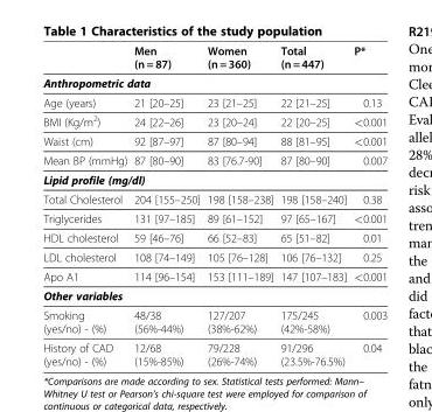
<table><thead><tr><td></td><td>Men (n = 87)</td><td>Women (n = 360)</td><td>Total (n = 447)</td><td>P*</td></tr></thead><tbody><tr><td colspan="5">Anthropometric data</td></tr><tr><td>Age (years)</td><td>21 [20–25]</td><td>23 [21–25]</td><td>22 [21–25]</td><td>0.13</td></tr><tr><td>BMI (Kg/m<sup>2</sup>)</td><td>24 [22–26]</td><td>23 [20–24]</td><td>22 [20–25]</td><td>&lt;0.001</td></tr><tr><td>Waist (cm)</td><td>92 [87–97]</td><td>87 [80–94]</td><td>88 [81–95]</td><td>&lt;0.001</td></tr><tr><td>Mean BP (mmHg)</td><td>87 [80–90]</td><td>83 [76.7-90]</td><td>87 [80–90]</td><td>0.007</td></tr><tr><td colspan="5">Lipid profile (mg/dl)</td></tr><tr><td>Total Cholesterol</td><td>204 [155–250]</td><td>198 [158–238]</td><td>198 [158–240]</td><td>0.38</td></tr><tr><td>Triglycerides</td><td>131 [97–185]</td><td>89 [61–152]</td><td>97 [65–167]</td><td>&lt;0.001</td></tr><tr><td>HDL cholesterol</td><td>59 [46–76]</td><td>66 [52–83]</td><td>65 [51–82]</td><td>0.01</td></tr><tr><td>LDL cholesterol</td><td>108 [74–149]</td><td>105 [76–128]</td><td>106 [76–132]</td><td>0.25</td></tr><tr><td>Apo A1</td><td>114 [96–154]</td><td>153 [111–189]</td><td>147 [107–183]</td><td>&lt;0.001</td></tr><tr><td colspan="5">Other variables</td></tr><tr><td>Smoking (yes/no) - (%)</td><td>48/38 (56%-44%)</td><td>127/207 (38%-62%)</td><td>175/245 (42%-58%)</td><td>0.003</td></tr><tr><td>History of CAD (yes/no) - (%)</td><td>12/68 (15%-85%)</td><td>79/228 (26%-74%)</td><td>91/296 (23.5%-76.5%)</td><td>0.04</td></tr></tbody></table>